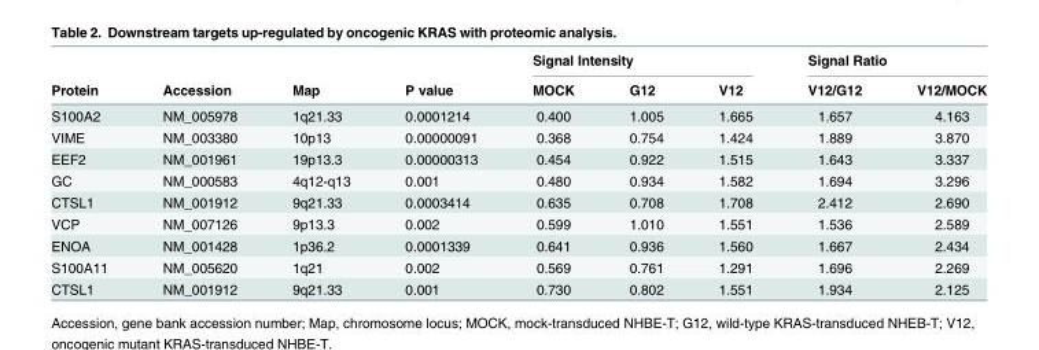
<table><thead><tr><td rowspan="2">Protein</td><td rowspan="2">Accession</td><td rowspan="2">Map</td><td rowspan="2">P value</td><td colspan="3">Signal Intensity</td><td colspan="2">Signal Ratio</td></tr><tr><td>MOCK</td><td>G12</td><td>V12</td><td>V12/G12</td><td>V12/MOCK</td></tr></thead><tbody><tr><td>S100A2</td><td>NM_005978</td><td>1q21.33</td><td>0.0001214</td><td>0.400</td><td>1.005</td><td>1.665</td><td>1.657</td><td>4.163</td></tr><tr><td>VIME</td><td>NM_003380</td><td>10p13</td><td>0.00000091</td><td>0.368</td><td>0.754</td><td>1.424</td><td>1.889</td><td>3.870</td></tr><tr><td>EEF2</td><td>NM_001961</td><td>19p13.3</td><td>0.00000313</td><td>0.454</td><td>0.922</td><td>1.515</td><td>1.643</td><td>3.337</td></tr><tr><td>GC</td><td>NM_000583</td><td>4q12-q13</td><td>0.001</td><td>0.480</td><td>0.934</td><td>1.582</td><td>1.694</td><td>3.296</td></tr><tr><td>CTSL1</td><td>NM_001912</td><td>9q21.33</td><td>0.0003414</td><td>0.635</td><td>0.708</td><td>1.708</td><td>2.412</td><td>2.690</td></tr><tr><td>VCP</td><td>NM_007126</td><td>9p13.3</td><td>0.002</td><td>0.599</td><td>1.010</td><td>1.551</td><td>1.536</td><td>2.589</td></tr><tr><td>ENOA</td><td>NM_001428</td><td>1p36.2</td><td>0.0001339</td><td>0.641</td><td>0.936</td><td>1.560</td><td>1.667</td><td>2.434</td></tr><tr><td>S100A11</td><td>NM_005620</td><td>1q21</td><td>0.002</td><td>0.569</td><td>0.761</td><td>1.291</td><td>1.696</td><td>2.269</td></tr><tr><td>CTSL1</td><td>NM_001912</td><td>9q21.33</td><td>0.001</td><td>0.730</td><td>0.802</td><td>1.551</td><td>1.934</td><td>2.125</td></tr></tbody></table>